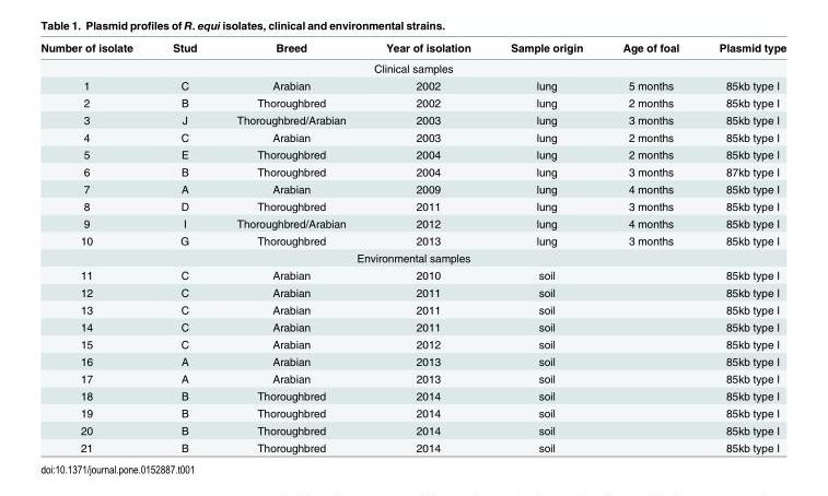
<table><thead><tr><td>Number of isolate</td><td>Stud</td><td>Breed</td><td>Year of isolation</td><td>Sample origin</td><td>Age of foal</td><td>Plasmid type</td></tr></thead><tbody><tr><td colspan="7">Clinical samples</td></tr><tr><td>1</td><td>C</td><td>Arabian</td><td>2002</td><td>lung</td><td>5 months</td><td>85kb type I</td></tr><tr><td>2</td><td>B</td><td>Thoroughbred</td><td>2002</td><td>lung</td><td>2 months</td><td>85kb type I</td></tr><tr><td>3</td><td>J</td><td>Thoroughbred/Arabian</td><td>2003</td><td>lung</td><td>3 months</td><td>85kb type I</td></tr><tr><td>4</td><td>C</td><td>Arabian</td><td>2003</td><td>lung</td><td>2 months</td><td>85kb type I</td></tr><tr><td>5</td><td>E</td><td>Thoroughbred</td><td>2004</td><td>lung</td><td>2 months</td><td>85kb type I</td></tr><tr><td>6</td><td>B</td><td>Thoroughbred</td><td>2004</td><td>lung</td><td>3 months</td><td>87kb type I</td></tr><tr><td>7</td><td>A</td><td>Arabian</td><td>2009</td><td>lung</td><td>4 months</td><td>85kb type I</td></tr><tr><td>8</td><td>D</td><td>Thoroughbred</td><td>2011</td><td>lung</td><td>3 months</td><td>85kb type I</td></tr><tr><td>9</td><td>I</td><td>Thoroughbred/Arabian</td><td>2012</td><td>lung</td><td>4 months</td><td>85kb type I</td></tr><tr><td>10</td><td>G</td><td>Thoroughbred</td><td>2013</td><td>lung</td><td>3 months</td><td>85kb type I</td></tr><tr><td colspan="7">Environmental samples</td></tr><tr><td>11</td><td>C</td><td>Arabian</td><td>2010</td><td>soil</td><td></td><td>85kb type I</td></tr><tr><td>12</td><td>C</td><td>Arabian</td><td>2011</td><td>soil</td><td></td><td>85kb type I</td></tr><tr><td>13</td><td>C</td><td>Arabian</td><td>2011</td><td>soil</td><td></td><td>85kb type I</td></tr><tr><td>14</td><td>C</td><td>Arabian</td><td>2011</td><td>soil</td><td></td><td>85kb type I</td></tr><tr><td>15</td><td>C</td><td>Arabian</td><td>2012</td><td>soil</td><td></td><td>85kb type I</td></tr><tr><td>16</td><td>A</td><td>Arabian</td><td>2013</td><td>soil</td><td></td><td>85kb type I</td></tr><tr><td>17</td><td>A</td><td>Arabian</td><td>2013</td><td>soil</td><td></td><td>85kb type I</td></tr><tr><td>18</td><td>B</td><td>Thoroughbred</td><td>2014</td><td>soil</td><td></td><td>85kb type I</td></tr><tr><td>19</td><td>B</td><td>Thoroughbred</td><td>2014</td><td>soil</td><td></td><td>85kb type I</td></tr><tr><td>20</td><td>B</td><td>Thoroughbred</td><td>2014</td><td>soil</td><td></td><td>85kb type I</td></tr><tr><td>21</td><td>B</td><td>Thoroughbred</td><td>2014</td><td>soil</td><td></td><td>85kb type I</td></tr></tbody></table>